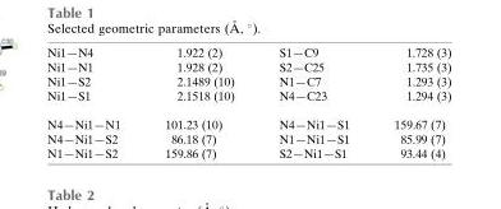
<table><tbody><tr><td>Ni1—N4</td><td>1.922 (2)</td><td>S1—C9</td><td>1.728 (3)</td></tr><tr><td>Ni1—N1</td><td>1.928 (2)</td><td>S2—C25</td><td>1.735 (3)</td></tr><tr><td>Ni1—S2</td><td>2.1489 (10)</td><td>N1—C7</td><td>1.293 (3)</td></tr><tr><td>Ni1—S1</td><td>2.1518 (10)</td><td>N4—C23</td><td>1.294 (3)</td></tr><tr><td>N4—Ni1—N1</td><td>101.23 (10)</td><td>N4—Ni1—S1</td><td>159.67 (7)</td></tr><tr><td>N4—Ni1—S2</td><td>86.18 (7)</td><td>N1—Ni1—S1</td><td>85.99 (7)</td></tr><tr><td>N1—Ni1—S2</td><td>159.86 (7)</td><td>S2—Ni1—S1</td><td>93.44 (4)</td></tr></tbody></table>